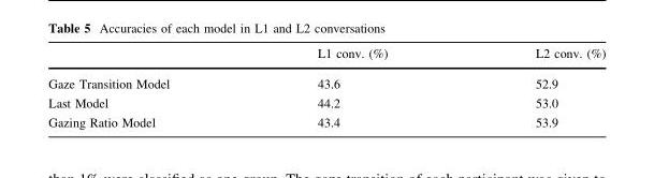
<table><thead><tr><td></td><td>L1 conv. (%)</td><td>L2 conv. (%)</td></tr></thead><tbody><tr><td>Gaze Transition Model</td><td>43.6</td><td>52.9</td></tr><tr><td>Last Model</td><td>44.2</td><td>53.0</td></tr><tr><td>Gazing Ratio Model</td><td>43.4</td><td>53.9</td></tr></tbody></table>